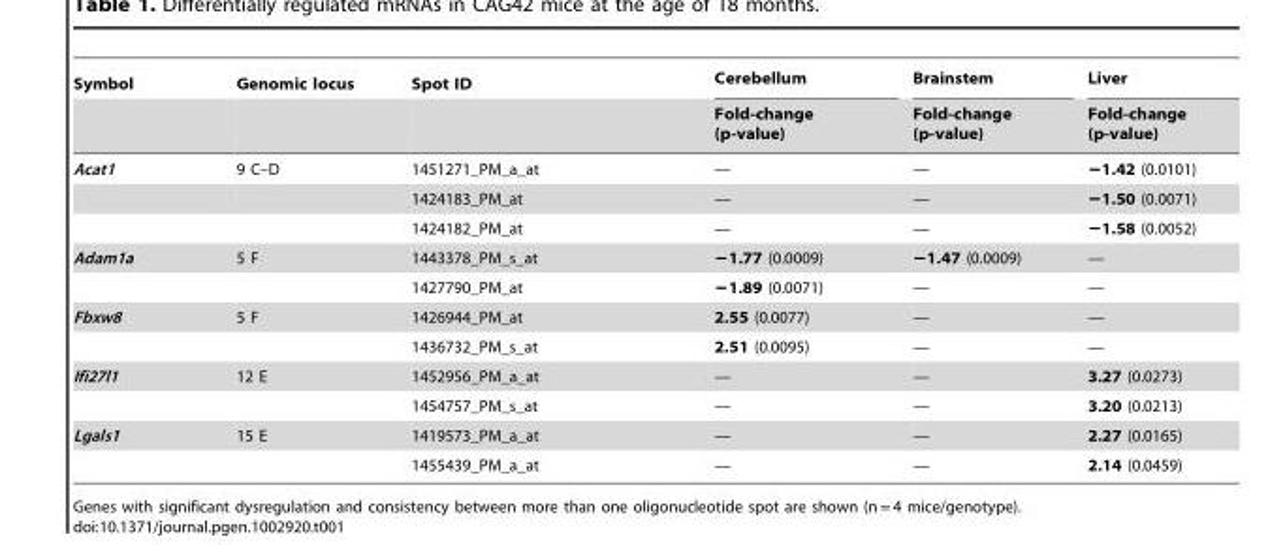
<table><thead><tr><td rowspan="2">Symbol</td><td rowspan="2">Genomic locus</td><td rowspan="2">Spot ID</td><td rowspan="2">Cerebellum Fold-change (p-value)</td><td rowspan="2">Brainstem Fold-change (p-value)</td><td rowspan="2">Liver Fold-change (p-value)</td></tr><tr></tr></thead><tbody><tr><td rowspan="3">Acat1</td><td>9 C–D</td><td>1451271_PM_a_at</td><td>—</td><td>—</td><td>−1.42 (0.0101)</td></tr><tr><td></td><td>1424183_PM_at</td><td>—</td><td>—</td><td>−1.50 (0.0071)</td></tr><tr><td></td><td>1424182_PM_at</td><td>—</td><td>—</td><td>−1.58 (0.0052)</td></tr><tr><td rowspan="2">Adam1a</td><td>5 F</td><td>1443378_PM_s_at</td><td>−1.77 (0.0009)</td><td>−1.47 (0.0009)</td><td>—</td></tr><tr><td></td><td>1427790_PM_at</td><td>−1.89 (0.0071)</td><td>—</td><td>—</td></tr><tr><td rowspan="2">Fbxw8</td><td>5 F</td><td>1426944_PM_at</td><td>2.55 (0.0077)</td><td>—</td><td>—</td></tr><tr><td></td><td>1436732_PM_s_at</td><td>2.51 (0.0095)</td><td>—</td><td>—</td></tr><tr><td rowspan="2">Ifi27l1</td><td>12 E</td><td>1452956_PM_a_at</td><td>—</td><td>—</td><td>3.27 (0.0273)</td></tr><tr><td></td><td>1454757_PM_s_at</td><td>—</td><td>—</td><td>3.20 (0.0213)</td></tr><tr><td rowspan="2">Lgals1</td><td>15 E</td><td>1419573_PM_a_at</td><td>—</td><td>—</td><td>2.27 (0.0165)</td></tr><tr><td></td><td>1455439_PM_a_at</td><td>—</td><td>—</td><td>2.14 (0.0459)</td></tr></tbody></table>